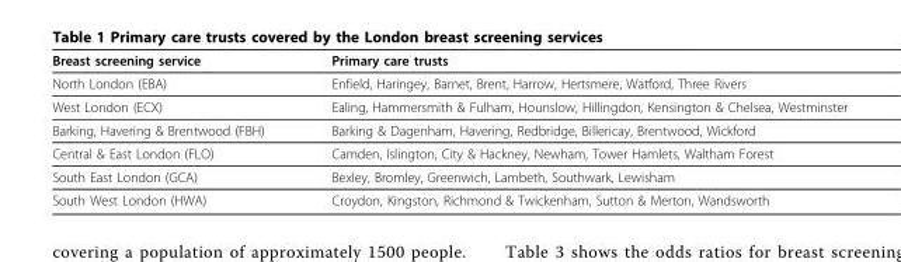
<table><thead><tr><td>Breast screening service</td><td>Primary care trusts</td></tr></thead><tbody><tr><td>North London (EBA)</td><td>Enfield, Haringey, Barnet, Brent, Harrow, Hertsmere, Watford, Three Rivers</td></tr><tr><td>West London (ECX)</td><td>Ealing, Hammersmith &amp; Fulham, Hounslow, Hillingdon, Kensington &amp; Chelsea, Westminster</td></tr><tr><td>Barking, Havering &amp; Brentwood (FBH)</td><td>Barking &amp; Dagenham, Havering, Redbridge, Billericay, Brentwood, Wickford</td></tr><tr><td>Central &amp; East London (FLO)</td><td>Camden, Islington, City &amp; Hackney, Newham, Tower Hamlets, Waltham Forest</td></tr><tr><td>South East London (GCA)</td><td>Bexley, Bromley, Greenwich, Lambeth, Southwark, Lewisham</td></tr><tr><td>South West London (HWA)</td><td>Croydon, Kingston, Richmond &amp; Twickenham, Sutton &amp; Merton, Wandsworth</td></tr></tbody></table>